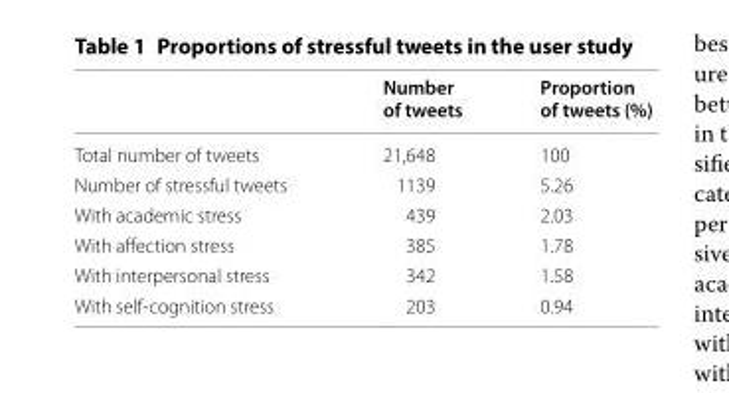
<table><thead><tr><td></td><td>Number of tweets</td><td>Proportion of tweets (%)</td></tr></thead><tbody><tr><td>Total number of tweets</td><td>21,648</td><td>100</td></tr><tr><td>Number of stressful tweets</td><td>1139</td><td>5.26</td></tr><tr><td>With academic stress</td><td>439</td><td>2.03</td></tr><tr><td>With affection stress</td><td>385</td><td>1.78</td></tr><tr><td>With interpersonal stress</td><td>342</td><td>1.58</td></tr><tr><td>With self-cognition stress</td><td>203</td><td>0.94</td></tr></tbody></table>